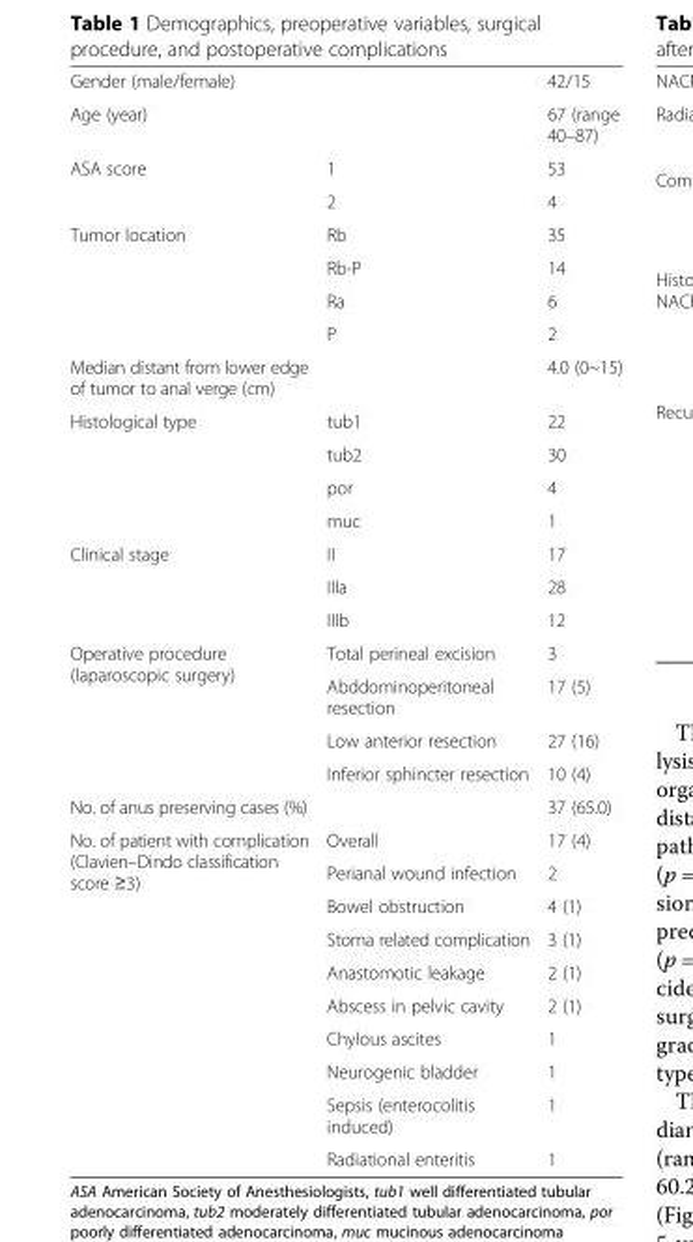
<table><tbody><tr><td colspan="2">Gender (male/female)</td><td>42/15</td></tr><tr><td colspan="2">Age (year)</td><td>67 (range 40–87)</td></tr><tr><td rowspan="2">ASA score</td><td>1</td><td>53</td></tr><tr><td>2</td><td>4</td></tr><tr><td rowspan="4">Tumor location</td><td>Rb</td><td>35</td></tr><tr><td>Rb-P</td><td>14</td></tr><tr><td>Ra</td><td>6</td></tr><tr><td>P</td><td>2</td></tr><tr><td>Median distant from lower edge of tumor to anal verge (cm)</td><td></td><td>4.0 (0~15)</td></tr><tr><td rowspan="4">Histological type</td><td>tub1</td><td>22</td></tr><tr><td>tub2</td><td>30</td></tr><tr><td>por</td><td>4</td></tr><tr><td>muc</td><td>1</td></tr><tr><td rowspan="3">Clinical stage</td><td>II</td><td>17</td></tr><tr><td>IIIa</td><td>28</td></tr><tr><td>IIIb</td><td>12</td></tr><tr><td rowspan="4">Operative procedure (laparoscopic surgery)</td><td>Total perineal excision</td><td>3</td></tr><tr><td>Abddominoperitoneal resection</td><td>17 (5)</td></tr><tr><td>Low anterior resection</td><td>27 (16)</td></tr><tr><td>Inferior sphincter resection</td><td>10 (4)</td></tr><tr><td>No. of anus preserving cases (%)</td><td></td><td>37 (65.0)</td></tr><tr><td rowspan="10">No. of patient with complication (Clavien–Dindo classification score ≥3)</td><td>Overall</td><td>17 (4)</td></tr><tr><td>Perianal wound infection</td><td>2</td></tr><tr><td>Bowel obstruction</td><td>4 (1)</td></tr><tr><td>Stoma related complication</td><td>3 (1)</td></tr><tr><td>Anastomotic leakage</td><td>2 (1)</td></tr><tr><td>Abscess in pelvic cavity</td><td>2 (1)</td></tr><tr><td>Chylous ascites</td><td>1</td></tr><tr><td>Neurogenic bladder</td><td>1</td></tr><tr><td>Sepsis (enterocolitis induced)</td><td>1</td></tr><tr><td>Radiational enteritis</td><td>1</td></tr></tbody></table>